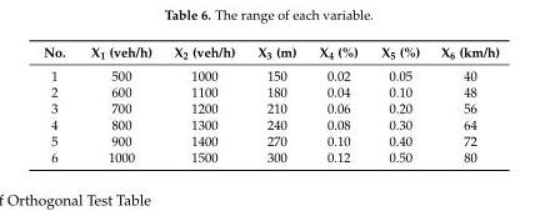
<table><thead><tr><td>No.</td><td>X<sub>1</sub> (veh/h)</td><td>X<sub>2</sub> (veh/h)</td><td>X<sub>3</sub> (m)</td><td>X<sub>4</sub> (%)</td><td>X<sub>5</sub> (%)</td><td>X<sub>6</sub> (km/h)</td></tr></thead><tbody><tr><td>1</td><td>500</td><td>1000</td><td>150</td><td>0.02</td><td>0.05</td><td>40</td></tr><tr><td>2</td><td>600</td><td>1100</td><td>180</td><td>0.04</td><td>0.10</td><td>48</td></tr><tr><td>3</td><td>700</td><td>1200</td><td>210</td><td>0.06</td><td>0.20</td><td>56</td></tr><tr><td>4</td><td>800</td><td>1300</td><td>240</td><td>0.08</td><td>0.30</td><td>64</td></tr><tr><td>5</td><td>900</td><td>1400</td><td>270</td><td>0.10</td><td>0.40</td><td>72</td></tr><tr><td>6</td><td>1000</td><td>1500</td><td>300</td><td>0.12</td><td>0.50</td><td>80</td></tr></tbody></table>